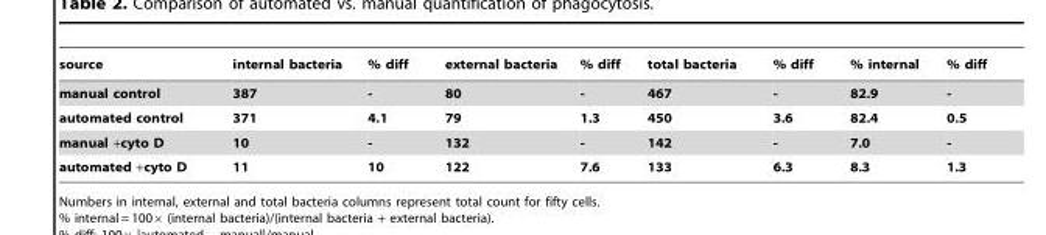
<table><thead><tr><td>source</td><td>internal bacteria</td><td>% diff</td><td>external bacteria</td><td>% diff</td><td>total bacteria</td><td>% diff</td><td>% internal</td><td>% diff</td></tr></thead><tbody><tr><td>manual control</td><td>387</td><td>-</td><td>80</td><td>-</td><td>467</td><td>-</td><td>82.9</td><td>-</td></tr><tr><td>automated control</td><td>371</td><td>4.1</td><td>79</td><td>1.3</td><td>450</td><td>3.6</td><td>82.4</td><td>0.5</td></tr><tr><td>manual +cyto D</td><td>10</td><td>-</td><td>132</td><td>-</td><td>142</td><td>-</td><td>7.0</td><td>-</td></tr><tr><td>automated +cyto D</td><td>11</td><td>10</td><td>122</td><td>7.6</td><td>133</td><td>6.3</td><td>8.3</td><td>1.3</td></tr></tbody></table>